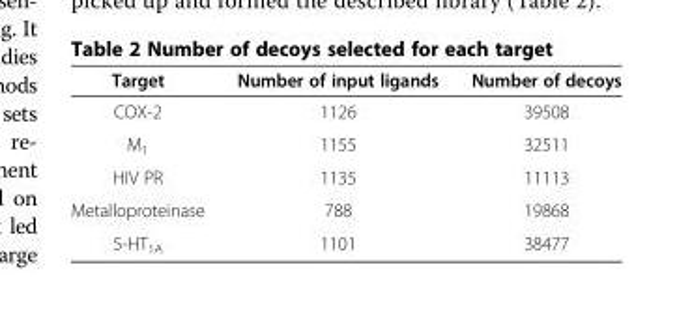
<table><thead><tr><td>Target</td><td>Number of input ligands</td><td>Number of decoys</td></tr></thead><tbody><tr><td>COX-2</td><td>1126</td><td>39508</td></tr><tr><td>M<sub>1</sub></td><td>1155</td><td>32511</td></tr><tr><td>HIV PR</td><td>1135</td><td>11113</td></tr><tr><td>Metalloproteinase</td><td>788</td><td>19868</td></tr><tr><td>5-HT<sub>1A</sub></td><td>1101</td><td>38477</td></tr></tbody></table>